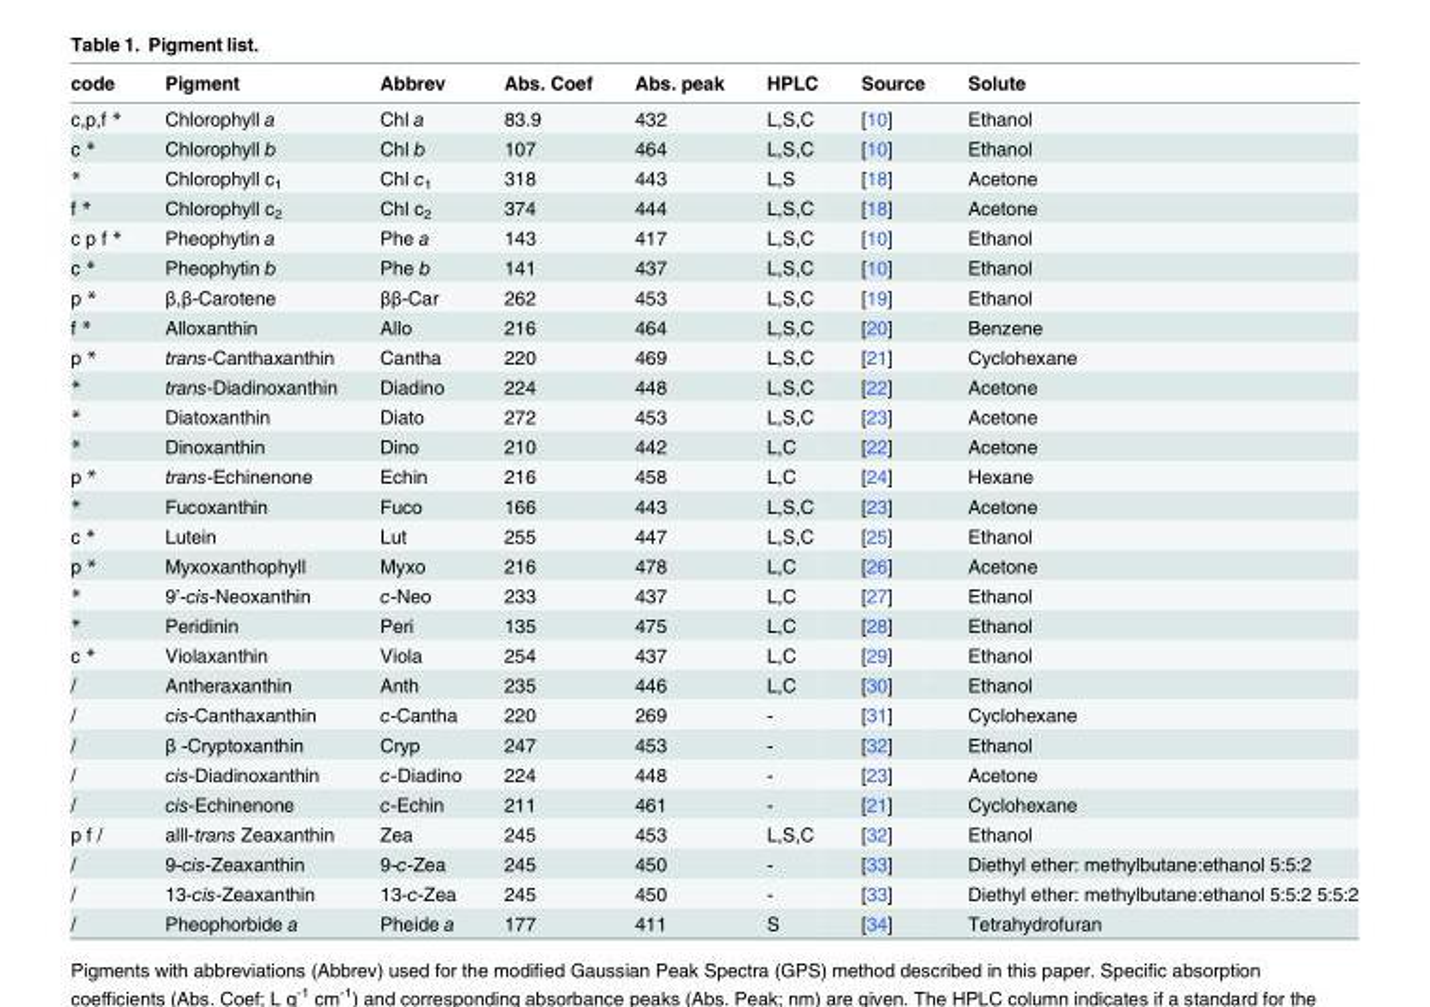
<table><thead><tr><td>code</td><td>Pigment</td><td>Abbrev</td><td>Abs. Coef</td><td>Abs. peak</td><td>HPLC</td><td>Source</td><td>Solute</td></tr></thead><tbody><tr><td>c,p,f *</td><td>Chlorophyll a</td><td>Chl a</td><td>83.9</td><td>432</td><td>L,S,C</td><td>[10]</td><td>Ethanol</td></tr><tr><td>c *</td><td>Chlorophyll b</td><td>Chl b</td><td>107</td><td>464</td><td>L,S,C</td><td>[10]</td><td>Ethanol</td></tr><tr><td>*</td><td>Chlorophyll c<sub>1</sub></td><td>Chl c<sub>1</sub></td><td>318</td><td>443</td><td>L,S</td><td>[18]</td><td>Acetone</td></tr><tr><td>f *</td><td>Chlorophyll c<sub>2</sub></td><td>Chl c<sub>2</sub></td><td>374</td><td>444</td><td>L,S,C</td><td>[18]</td><td>Acetone</td></tr><tr><td>c p f *</td><td>Pheophytin a</td><td>Phe a</td><td>143</td><td>417</td><td>L,S,C</td><td>[10]</td><td>Ethanol</td></tr><tr><td>c *</td><td>Pheophytin b</td><td>Phe b</td><td>141</td><td>437</td><td>L,S,C</td><td>[10]</td><td>Ethanol</td></tr><tr><td>p *</td><td>β,β-Carotene</td><td>ββ-Car</td><td>262</td><td>453</td><td>L,S,C</td><td>[19]</td><td>Ethanol</td></tr><tr><td>f *</td><td>Alloxanthin</td><td>Allo</td><td>216</td><td>464</td><td>L,S,C</td><td>[20]</td><td>Benzene</td></tr><tr><td>p *</td><td>trans-Canthaxanthin</td><td>Cantha</td><td>220</td><td>469</td><td>L,S,C</td><td>[21]</td><td>Cyclohexane</td></tr><tr><td>*</td><td>trans-Diadinoxanthin</td><td>Diadino</td><td>224</td><td>448</td><td>L,S,C</td><td>[22]</td><td>Acetone</td></tr><tr><td>*</td><td>Diatoxanthin</td><td>Diato</td><td>272</td><td>453</td><td>L,S,C</td><td>[23]</td><td>Acetone</td></tr><tr><td>*</td><td>Dinoxanthin</td><td>Dino</td><td>210</td><td>442</td><td>L,C</td><td>[22]</td><td>Acetone</td></tr><tr><td>p *</td><td>trans-Echinenone</td><td>Echin</td><td>216</td><td>458</td><td>L,C</td><td>[24]</td><td>Hexane</td></tr><tr><td>*</td><td>Fucoxanthin</td><td>Fuco</td><td>166</td><td>443</td><td>L,S,C</td><td>[23]</td><td>Acetone</td></tr><tr><td>c *</td><td>Lutein</td><td>Lut</td><td>255</td><td>447</td><td>L,S,C</td><td>[25]</td><td>Ethanol</td></tr><tr><td>p *</td><td>Myxoxanthophyll</td><td>Myxo</td><td>216</td><td>478</td><td>L,C</td><td>[26]</td><td>Acetone</td></tr><tr><td>*</td><td>9’-cis-Neoxanthin</td><td>c-Neo</td><td>233</td><td>437</td><td>L,C</td><td>[27]</td><td>Ethanol</td></tr><tr><td>*</td><td>Peridinin</td><td>Peri</td><td>135</td><td>475</td><td>L,C</td><td>[28]</td><td>Ethanol</td></tr><tr><td>c *</td><td>Violaxanthin</td><td>Viola</td><td>254</td><td>437</td><td>L,C</td><td>[29]</td><td>Ethanol</td></tr><tr><td>/</td><td>Antheraxanthin</td><td>Anth</td><td>235</td><td>446</td><td>L,C</td><td>[30]</td><td>Ethanol</td></tr><tr><td>/</td><td>cis-Canthaxanthin</td><td>c-Cantha</td><td>220</td><td>269</td><td>-</td><td>[31]</td><td>Cyclohexane</td></tr><tr><td>/</td><td>β -Cryptoxanthin</td><td>Cryp</td><td>247</td><td>453</td><td>-</td><td>[32]</td><td>Ethanol</td></tr><tr><td>/</td><td>cis-Diadinoxanthin</td><td>c-Diadino</td><td>224</td><td>448</td><td>-</td><td>[23]</td><td>Acetone</td></tr><tr><td>/</td><td>cis-Echinenone</td><td>c-Echin</td><td>211</td><td>461</td><td>-</td><td>[21]</td><td>Cyclohexane</td></tr><tr><td>p f /</td><td>alll-trans Zeaxanthin</td><td>Zea</td><td>245</td><td>453</td><td>L,S,C</td><td>[32]</td><td>Ethanol</td></tr><tr><td>/</td><td>9-cis-Zeaxanthin</td><td>9-c-Zea</td><td>245</td><td>450</td><td>-</td><td>[33]</td><td>Diethyl ether: methylbutane:ethanol 5:5:2</td></tr><tr><td>/</td><td>13-cis-Zeaxanthin</td><td>13-c-Zea</td><td>245</td><td>450</td><td>-</td><td>[33]</td><td>Diethyl ether: methylbutane:ethanol 5:5:2 5:5:2</td></tr><tr><td>/</td><td>Pheophorbide a</td><td>Pheide a</td><td>177</td><td>411</td><td>S</td><td>[34]</td><td>Tetrahydrofuran</td></tr></tbody></table>